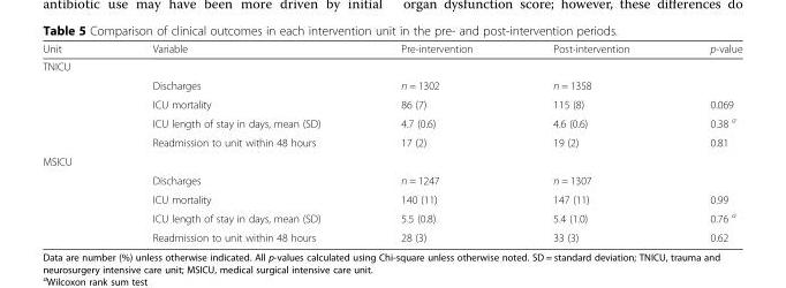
<table><thead><tr><td>Unit</td><td>Variable</td><td>Pre-intervention</td><td>Post-intervention</td><td>p-value</td></tr></thead><tbody><tr><td colspan="5">TNICU</td></tr><tr><td></td><td>Discharges</td><td>n = 1302</td><td>n = 1358</td><td></td></tr><tr><td></td><td>ICU mortality</td><td>86 (7)</td><td>115 (8)</td><td>0.069</td></tr><tr><td></td><td>ICU length of stay in days, mean (SD)</td><td>4.7 (0.6)</td><td>4.6 (0.6)</td><td>0.38 <sup>a</sup></td></tr><tr><td></td><td>Readmission to unit within 48 hours</td><td>17 (2)</td><td>19 (2)</td><td>0.81</td></tr><tr><td colspan="5">MSICU</td></tr><tr><td></td><td>Discharges</td><td>n = 1247</td><td>n = 1307</td><td></td></tr><tr><td></td><td>ICU mortality</td><td>140 (11)</td><td>147 (11)</td><td>0.99</td></tr><tr><td></td><td>ICU length of stay in days, mean (SD)</td><td>5.5 (0.8)</td><td>5.4 (1.0)</td><td>0.76 <sup>a</sup></td></tr><tr><td></td><td>Readmission to unit within 48 hours</td><td>28 (3)</td><td>33 (3)</td><td>0.62</td></tr></tbody></table>